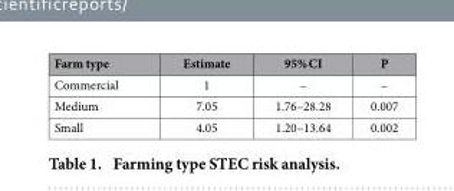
<table><thead><tr><td>Farm type</td><td>Estimate</td><td>95% CI</td><td>P</td></tr></thead><tbody><tr><td>Commercial</td><td>1</td><td>–</td><td>–</td></tr><tr><td>Medium</td><td>7.05</td><td>1.76–28.28</td><td>0.007</td></tr><tr><td>Small</td><td>4.05</td><td>1.20–13.64</td><td>0.002</td></tr></tbody></table>